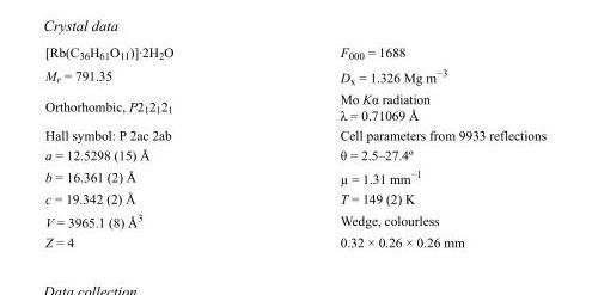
<table><tbody><tr><td>[Rb(C<sub>36</sub>H<sub>61</sub>O<sub>11</sub>)]·2H<sub>2</sub>O</td><td>F<sub>000</sub> = 1688</td></tr><tr><td>M<sub>r</sub> = 791.35</td><td>D<sub>x</sub> = 1.326 Mg m<sup>−3</sup></td></tr><tr><td>Orthorhombic, P2<sub>1</sub>2<sub>1</sub>2<sub>1</sub></td><td>Mo Kα radiation λ = 0.71069 Å</td></tr><tr><td>Hall symbol: P 2ac 2ab</td><td>Cell parameters from 9933 reflections</td></tr><tr><td>a = 12.5298 (15) Å</td><td>θ = 2.5–27.4º</td></tr><tr><td>b = 16.361 (2) Å</td><td>µ = 1.31 mm<sup>−1</sup></td></tr><tr><td>c = 19.342 (2) Å</td><td>T = 149 (2) K</td></tr><tr><td>V = 3965.1 (8) Å<sup>3</sup></td><td>Wedge, colourless</td></tr><tr><td>Z = 4</td><td>0.32 × 0.26 × 0.26 mm</td></tr></tbody></table>